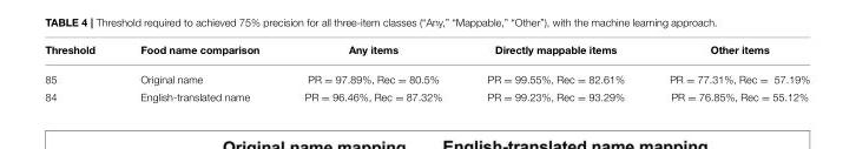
<table><thead><tr><td>Threshold</td><td>Food name comparison</td><td>Any items</td><td>Directly mappable items</td><td>Other items</td></tr></thead><tbody><tr><td>85</td><td>Original name</td><td>PR = 97.89%, Rec = 80.5%</td><td>PR = 99.55%, Rec = 82.61%</td><td>PR = 77.31%, Rec = 57.19%</td></tr><tr><td>84</td><td>English-translated name</td><td>PR = 96.46%, Rec = 87.32%</td><td>PR = 99.23%, Rec = 93.29%</td><td>PR = 76.85%, Rec = 55.12%</td></tr></tbody></table>